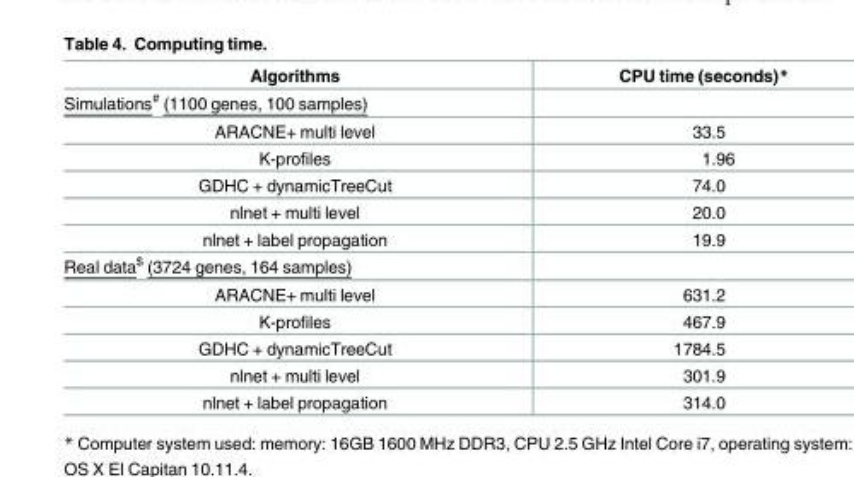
<table><thead><tr><td>Algorithms</td><td>CPU time (seconds)*</td></tr></thead><tbody><tr><td colspan="2">Simulations<sup>#</sup> (1100 genes, 100 samples)</td></tr><tr><td>ARACNE+ multi level</td><td>33.5</td></tr><tr><td>K-profiles</td><td>1.96</td></tr><tr><td>GDHC + dynamicTreeCut</td><td>74.0</td></tr><tr><td>nlnet + multi level</td><td>20.0</td></tr><tr><td>nlnet + label propagation</td><td>19.9</td></tr><tr><td colspan="2">Real data<sup>$</sup> (3724 genes, 164 samples)</td></tr><tr><td>ARACNE+ multi level</td><td>631.2</td></tr><tr><td>K-profiles</td><td>467.9</td></tr><tr><td>GDHC + dynamicTreeCut</td><td>1784.5</td></tr><tr><td>nlnet + multi level</td><td>301.9</td></tr><tr><td>nlnet + label propagation</td><td>314.0</td></tr></tbody></table>